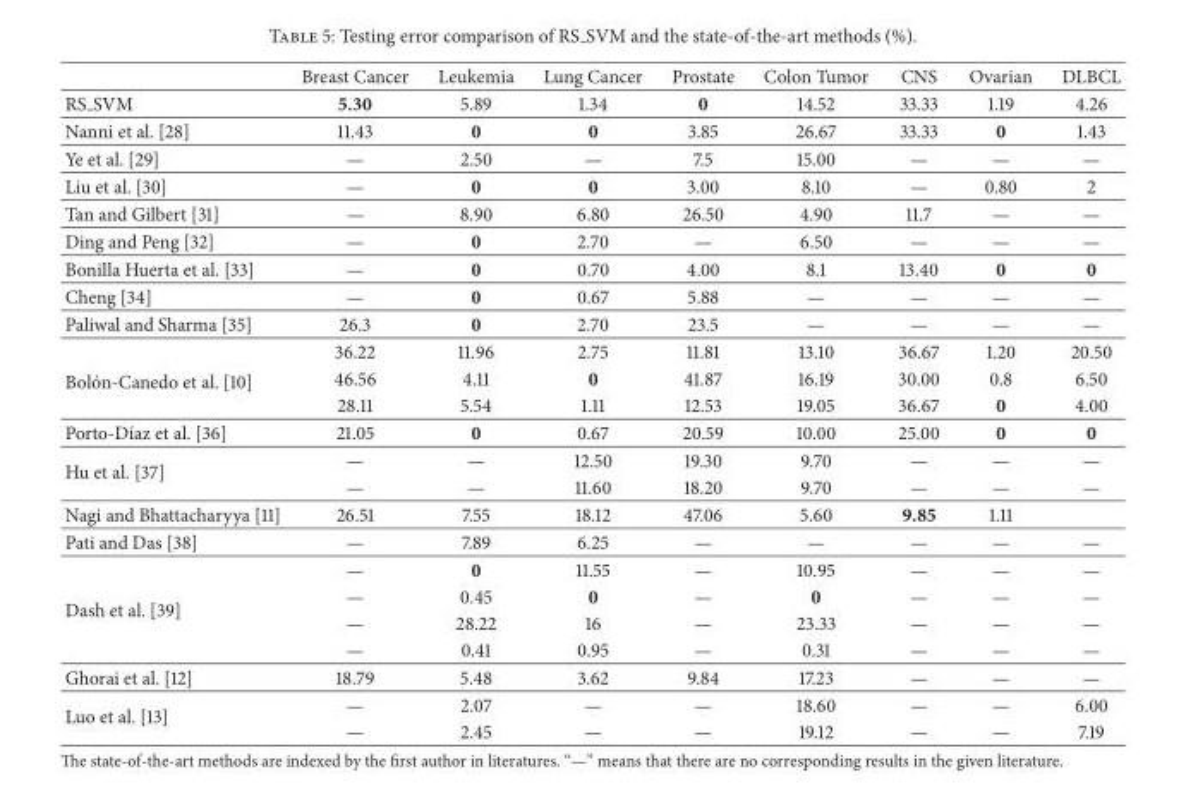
<table><thead><tr><td></td><td>Breast Cancer</td><td>Leukemia</td><td>Lung Cancer</td><td>Prostate</td><td>Colon Tumor</td><td>CNS</td><td>Ovarian</td><td>DLBCL</td></tr></thead><tbody><tr><td>RS SVM</td><td>5.30</td><td>5.89</td><td>1.34</td><td>0</td><td>14.52</td><td>33.33</td><td>1.19</td><td>4.26</td></tr><tr><td>Nanni et al. [28]</td><td>11.43</td><td>0</td><td>0</td><td>3.85</td><td>26.67</td><td>33.33</td><td>0</td><td>1.43</td></tr><tr><td>Ye et al. [29]</td><td>—</td><td>2.50</td><td>—</td><td>7.5</td><td>15.00</td><td>—</td><td>—</td><td>—</td></tr><tr><td>Liu et al. [30]</td><td>—</td><td>0</td><td>0</td><td>3.00</td><td>8.10</td><td>—</td><td>0.80</td><td>2</td></tr><tr><td>Tan and Gilbert [31]</td><td>—</td><td>8.90</td><td>6.80</td><td>26.50</td><td>4.90</td><td>11.7</td><td>—</td><td>—</td></tr><tr><td>Ding and Peng [32]</td><td>—</td><td>0</td><td>2.70</td><td>—</td><td>6.50</td><td>—</td><td>—</td><td>—</td></tr><tr><td>Bonilla Huerta et al. [33]</td><td>—</td><td>0</td><td>0.70</td><td>4.00</td><td>8.1</td><td>13.40</td><td>0</td><td>0</td></tr><tr><td>Cheng [34]</td><td>—</td><td>0</td><td>0.67</td><td>5.88</td><td>—</td><td>—</td><td>—</td><td>—</td></tr><tr><td>Paliwal and Sharma [35]</td><td>26.3</td><td>0</td><td>2.70</td><td>23.5</td><td>—</td><td>—</td><td>—</td><td>—</td></tr><tr><td rowspan="3">Bol´on-Canedo et al. [10]</td><td>36.22</td><td>11.96</td><td>2.75</td><td>11.81</td><td>13.10</td><td>36.67</td><td>1.20</td><td>20.50</td></tr><tr><td>46.56</td><td>4.11</td><td>0</td><td>41.87</td><td>16.19</td><td>30.00</td><td>0.8</td><td>6.50</td></tr><tr><td>28.11</td><td>5.54</td><td>1.11</td><td>12.53</td><td>19.05</td><td>36.67</td><td>0</td><td>4.00</td></tr><tr><td>Porto-D´ıaz et al. [36]</td><td>21.05</td><td>0</td><td>0.67</td><td>20.59</td><td>10.00</td><td>25.00</td><td>0</td><td>0</td></tr><tr><td rowspan="2">Hu et al. [37]</td><td>—</td><td>—</td><td>12.50</td><td>19.30</td><td>9.70</td><td>—</td><td>—</td><td>—</td></tr><tr><td>—</td><td>—</td><td>11.60</td><td>18.20</td><td>9.70</td><td>—</td><td>—</td><td>—</td></tr><tr><td>Nagi and Bhattacharyya [11]</td><td>26.51</td><td>7.55</td><td>18.12</td><td>47.06</td><td>5.60</td><td>9.85</td><td>1.11</td><td></td></tr><tr><td>Pati and Das [38]</td><td>—</td><td>7.89</td><td>6.25</td><td>—</td><td>—</td><td>—</td><td>—</td><td>—</td></tr><tr><td rowspan="4">Dash et al. [39]</td><td>—</td><td>0</td><td>11.55</td><td>—</td><td>10.95</td><td>—</td><td>—</td><td>—</td></tr><tr><td>—</td><td>0.45</td><td>0</td><td>—</td><td>0</td><td>—</td><td>—</td><td>—</td></tr><tr><td>—</td><td>28.22</td><td>16</td><td>—</td><td>23.33</td><td>—</td><td>—</td><td>—</td></tr><tr><td>—</td><td>0.41</td><td>0.95</td><td>—</td><td>0.31</td><td>—</td><td>—</td><td>—</td></tr><tr><td>Ghorai et al. [12]</td><td>18.79</td><td>5.48</td><td>3.62</td><td>9.84</td><td>17.23</td><td>—</td><td>—</td><td>—</td></tr><tr><td rowspan="2">Luo et al. [13]</td><td>—</td><td>2.07</td><td>—</td><td>—</td><td>18.60</td><td>—</td><td>—</td><td>6.00</td></tr><tr><td>—</td><td>2.45</td><td>—</td><td>—</td><td>19.12</td><td>—</td><td>—</td><td>7.19</td></tr></tbody></table>